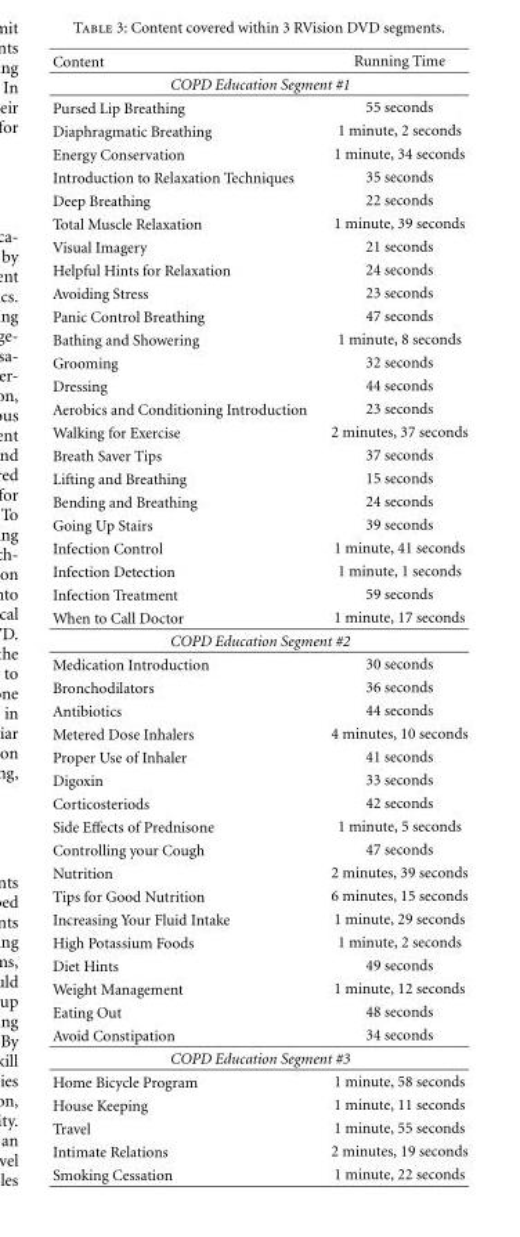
<table><thead><tr><td>Content</td><td>Running Time</td></tr></thead><tbody><tr><td colspan="2">COPD Education Segment #1</td></tr><tr><td>Pursed Lip Breathing</td><td>55 seconds</td></tr><tr><td>Diaphragmatic Breathing</td><td>1 minute, 2 seconds</td></tr><tr><td>Energy Conservation</td><td>1 minute, 34 seconds</td></tr><tr><td>Introduction to Relaxation Techniques</td><td>35 seconds</td></tr><tr><td>Deep Breathing</td><td>22 seconds</td></tr><tr><td>Total Muscle Relaxation</td><td>1 minute, 39 seconds</td></tr><tr><td>Visual Imagery</td><td>21 seconds</td></tr><tr><td>Helpful Hints for Relaxation</td><td>24 seconds</td></tr><tr><td>Avoiding Stress</td><td>23 seconds</td></tr><tr><td>Panic Control Breathing</td><td>47 seconds</td></tr><tr><td>Bathing and Showering</td><td>1 minute, 8 seconds</td></tr><tr><td>Grooming</td><td>32 seconds</td></tr><tr><td>Dressing</td><td>44 seconds</td></tr><tr><td>Aerobics and Conditioning Introduction</td><td>23 seconds</td></tr><tr><td>Walking for Exercise</td><td>2 minutes, 37 seconds</td></tr><tr><td>Breath Saver Tips</td><td>37 seconds</td></tr><tr><td>Lifting and Breathing</td><td>15 seconds</td></tr><tr><td>Bending and Breathing</td><td>24 seconds</td></tr><tr><td>Going Up Stairs</td><td>39 seconds</td></tr><tr><td>Infection Control</td><td>1 minute, 41 seconds</td></tr><tr><td>Infection Detection</td><td>1 minute, 1 seconds</td></tr><tr><td>Infection Treatment</td><td>59 seconds</td></tr><tr><td>When to Call Doctor</td><td>1 minute, 17 seconds</td></tr><tr><td colspan="2">COPD Education Segment #2</td></tr><tr><td>Medication Introduction</td><td>30 seconds</td></tr><tr><td>Bronchodilators</td><td>36 seconds</td></tr><tr><td>Antibiotics</td><td>44 seconds</td></tr><tr><td>Metered Dose Inhalers</td><td>4 minutes, 10 seconds</td></tr><tr><td>Proper Use of Inhaler</td><td>41 seconds</td></tr><tr><td>Digoxin</td><td>33 seconds</td></tr><tr><td>Corticosteriods</td><td>42 seconds</td></tr><tr><td>Side Effects of Prednisone</td><td>1 minute, 5 seconds</td></tr><tr><td>Controlling your Cough</td><td>47 seconds</td></tr><tr><td>Nutrition</td><td>2 minutes, 39 seconds</td></tr><tr><td>Tips for Good Nutrition</td><td>6 minutes, 15 seconds</td></tr><tr><td>Increasing Your Fluid Intake</td><td>1 minute, 29 seconds</td></tr><tr><td>High Potassium Foods</td><td>1 minute, 2 seconds</td></tr><tr><td>Diet Hints</td><td>49 seconds</td></tr><tr><td>Weight Management</td><td>1 minute, 12 seconds</td></tr><tr><td>Eating Out</td><td>48 seconds</td></tr><tr><td>Avoid Constipation</td><td>34 seconds</td></tr><tr><td colspan="2">COPD Education Segment #3</td></tr><tr><td>Home Bicycle Program</td><td>1 minute, 58 seconds</td></tr><tr><td>House Keeping</td><td>1 minute, 11 seconds</td></tr><tr><td>Travel</td><td>1 minute, 55 seconds</td></tr><tr><td>Intimate Relations</td><td>2 minutes, 19 seconds</td></tr><tr><td>Smoking Cessation</td><td>1 minute, 22 seconds</td></tr></tbody></table>